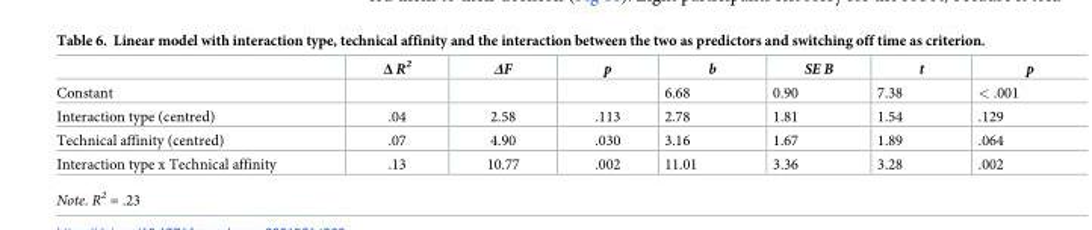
<table><thead><tr><td></td><td>Δ R<sup>2</sup></td><td>ΔF</td><td>p</td><td>b</td><td>SE B</td><td>t</td><td>p</td></tr></thead><tbody><tr><td>Constant</td><td></td><td></td><td></td><td>6.68</td><td>0.90</td><td>7.38</td><td>&lt; .001</td></tr><tr><td>Interaction type (centred)</td><td>.04</td><td>2.58</td><td>.113</td><td>2.78</td><td>1.81</td><td>1.54</td><td>.129</td></tr><tr><td>Technical affinity (centred)</td><td>.07</td><td>4.90</td><td>.030</td><td>3.16</td><td>1.67</td><td>1.89</td><td>.064</td></tr><tr><td>Interaction type x Technical affinity</td><td>.13</td><td>10.77</td><td>.002</td><td>11.01</td><td>3.36</td><td>3.28</td><td>.002</td></tr></tbody></table>